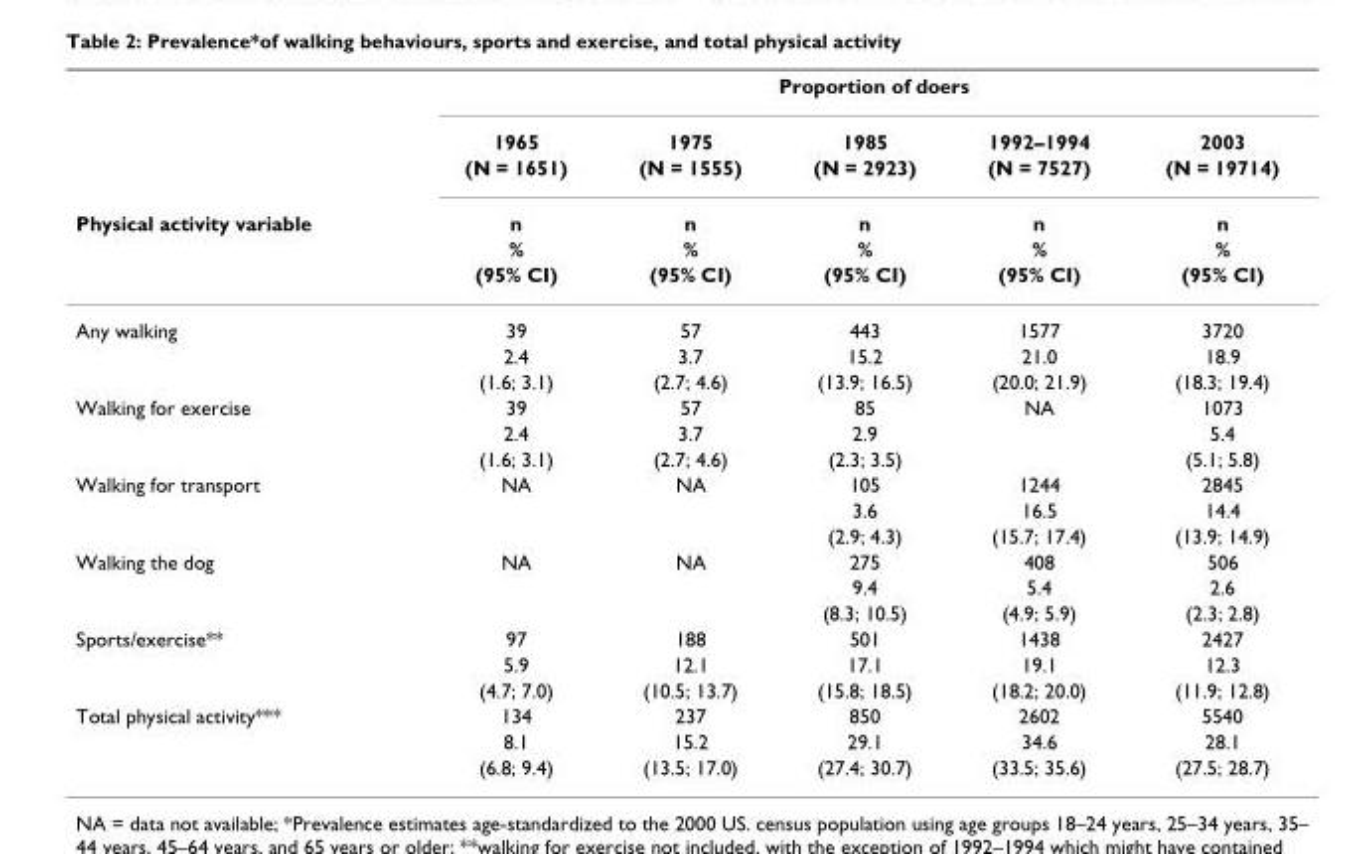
<table><thead><tr><td rowspan="6">Physical activity variable</td><td colspan="5">Proportion of doers</td></tr><tr><td rowspan="5">1965 (N = 1651) n % (95% CI)</td><td rowspan="5">1975 (N = 1555) n % (95% CI)</td><td rowspan="5">1985 (N = 2923) n % (95% CI)</td><td rowspan="5">1992–1994 (N = 7527) n % (95% CI)</td><td rowspan="5">2003 (N = 19714) n % (95% CI)</td></tr><tr></tr><tr></tr><tr></tr><tr></tr></thead><tbody><tr><td rowspan="3">Any walking</td><td>39</td><td>57</td><td>443</td><td>1577</td><td>3720</td></tr><tr><td>2.4</td><td>3.7</td><td>15.2</td><td>21.0</td><td>18.9</td></tr><tr><td>(1.6; 3.1)</td><td>(2.7; 4.6)</td><td>(13.9; 16.5)</td><td>(20.0; 21.9)</td><td>(18.3; 19.4)</td></tr><tr><td rowspan="3">Walking for exercise</td><td>39</td><td>57</td><td>85</td><td>NA</td><td>1073</td></tr><tr><td>2.4</td><td>3.7</td><td>2.9</td><td></td><td>5.4</td></tr><tr><td>(1.6; 3.1)</td><td>(2.7; 4.6)</td><td>(2.3; 3.5)</td><td></td><td>(5.1; 5.8)</td></tr><tr><td rowspan="3">Walking for transport</td><td>NA</td><td>NA</td><td>105</td><td>1244</td><td>2845</td></tr><tr><td></td><td></td><td>3.6</td><td>16.5</td><td>14.4</td></tr><tr><td></td><td></td><td>(2.9; 4.3)</td><td>(15.7; 17.4)</td><td>(13.9; 14.9)</td></tr><tr><td rowspan="3">Walking the dog</td><td>NA</td><td>NA</td><td>275</td><td>408</td><td>506</td></tr><tr><td></td><td></td><td>9.4</td><td>5.4</td><td>2.6</td></tr><tr><td></td><td></td><td>(8.3; 10.5)</td><td>(4.9; 5.9)</td><td>(2.3; 2.8)</td></tr><tr><td rowspan="3">Sports/exercise**</td><td>97</td><td>188</td><td>501</td><td>1438</td><td>2427</td></tr><tr><td>5.9</td><td>12.1</td><td>17.1</td><td>19.1</td><td>12.3</td></tr><tr><td>(4.7; 7.0)</td><td>(10.5; 13.7)</td><td>(15.8; 18.5)</td><td>(18.2; 20.0)</td><td>(11.9; 12.8)</td></tr><tr><td rowspan="3">Total physical activity***</td><td>134</td><td>237</td><td>850</td><td>2602</td><td>5540</td></tr><tr><td>8.1</td><td>15.2</td><td>29.1</td><td>34.6</td><td>28.1</td></tr><tr><td>(6.8; 9.4)</td><td>(13.5; 17.0)</td><td>(27.4; 30.7)</td><td>(33.5; 35.6)</td><td>(27.5; 28.7)</td></tr></tbody></table>